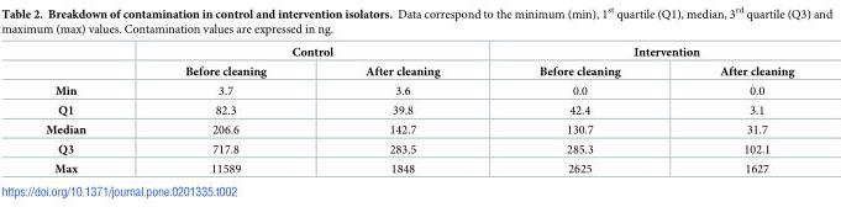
<table><thead><tr><td rowspan="2"></td><td colspan="2">Control</td><td colspan="2">Intervention</td></tr><tr><td>Before cleaning</td><td>After cleaning</td><td>Before cleaning</td><td>After cleaning</td></tr></thead><tbody><tr><td>Min</td><td>3.7</td><td>3.6</td><td>0.0</td><td>0.0</td></tr><tr><td>Q1</td><td>82.3</td><td>39.8</td><td>42.4</td><td>3.1</td></tr><tr><td>Median</td><td>206.6</td><td>142.7</td><td>130.7</td><td>31.7</td></tr><tr><td>Q3</td><td>717.8</td><td>283.5</td><td>285.3</td><td>102.1</td></tr><tr><td>Max</td><td>11589</td><td>1848</td><td>2625</td><td>1627</td></tr></tbody></table>